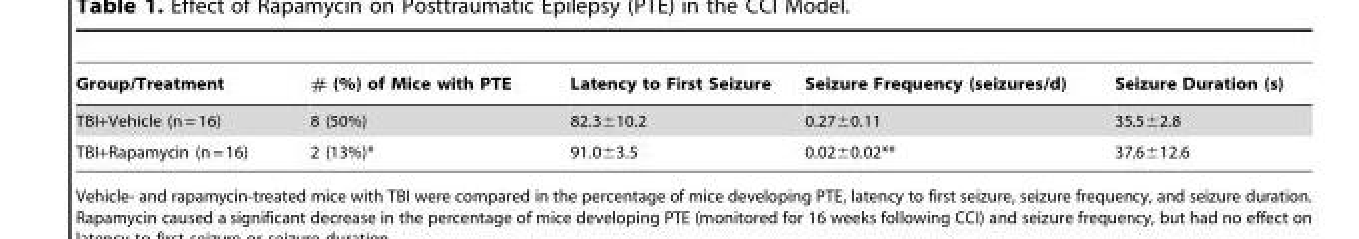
<table><thead><tr><td>Group/Treatment</td><td># (%) of Mice with PTE</td><td>Latency to First Seizure</td><td>Seizure Frequency (seizures/d)</td><td>Seizure Duration (s)</td></tr></thead><tbody><tr><td>TBI+Vehicle (n = 16)</td><td>8 (50%)</td><td>82.3±10.2</td><td>0.27±0.11</td><td>35.5±2.8</td></tr><tr><td>TBI+Rapamycin (n = 16)</td><td>2 (13%)*</td><td>91.0±3.5</td><td>0.02±0.02**</td><td>37.6±12.6</td></tr></tbody></table>